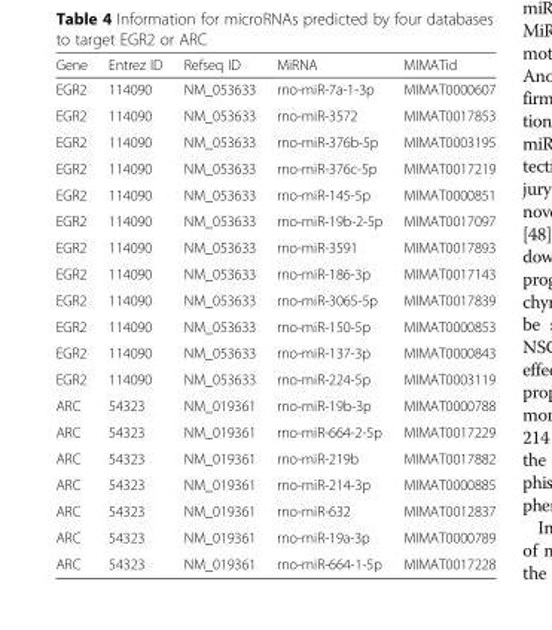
<table><thead><tr><td>Gene</td><td>Entrez ID</td><td>Refseq ID</td><td>MiRNA</td><td>MIMATid</td></tr></thead><tbody><tr><td>EGR2</td><td>114090</td><td>NM_053633</td><td>rno-miR-7a-1-3p</td><td>MIMAT0000607</td></tr><tr><td>EGR2</td><td>114090</td><td>NM_053633</td><td>rno-miR-3572</td><td>MIMAT0017853</td></tr><tr><td>EGR2</td><td>114090</td><td>NM_053633</td><td>rno-miR-376b-5p</td><td>MIMAT0003195</td></tr><tr><td>EGR2</td><td>114090</td><td>NM_053633</td><td>rno-miR-376c-5p</td><td>MIMAT0017219</td></tr><tr><td>EGR2</td><td>114090</td><td>NM_053633</td><td>rno-miR-145-5p</td><td>MIMAT0000851</td></tr><tr><td>EGR2</td><td>114090</td><td>NM_053633</td><td>rno-miR-19b-2-5p</td><td>MIMAT0017097</td></tr><tr><td>EGR2</td><td>114090</td><td>NM_053633</td><td>rno-miR-3591</td><td>MIMAT0017893</td></tr><tr><td>EGR2</td><td>114090</td><td>NM_053633</td><td>rno-miR-186-3p</td><td>MIMAT0017143</td></tr><tr><td>EGR2</td><td>114090</td><td>NM_053633</td><td>rno-miR-3065-5p</td><td>MIMAT0017839</td></tr><tr><td>EGR2</td><td>114090</td><td>NM_053633</td><td>rno-miR-150-5p</td><td>MIMAT0000853</td></tr><tr><td>EGR2</td><td>114090</td><td>NM_053633</td><td>rno-miR-137-3p</td><td>MIMAT0000843</td></tr><tr><td>EGR2</td><td>114090</td><td>NM_053633</td><td>rno-miR-224-5p</td><td>MIMAT0003119</td></tr><tr><td>ARC</td><td>54323</td><td>NM_019361</td><td>rno-miR-19b-3p</td><td>MIMAT0000788</td></tr><tr><td>ARC</td><td>54323</td><td>NM_019361</td><td>rno-miR-664-2-5p</td><td>MIMAT0017229</td></tr><tr><td>ARC</td><td>54323</td><td>NM_019361</td><td>rno-miR-219b</td><td>MIMAT0017882</td></tr><tr><td>ARC</td><td>54323</td><td>NM_019361</td><td>rno-miR-214-3p</td><td>MIMAT0000885</td></tr><tr><td>ARC</td><td>54323</td><td>NM_019361</td><td>rno-miR-632</td><td>MIMAT0012837</td></tr><tr><td>ARC</td><td>54323</td><td>NM_019361</td><td>rno-miR-19a-3p</td><td>MIMAT0000789</td></tr><tr><td>ARC</td><td>54323</td><td>NM_019361</td><td>rno-miR-664-1-5p</td><td>MIMAT0017228</td></tr></tbody></table>